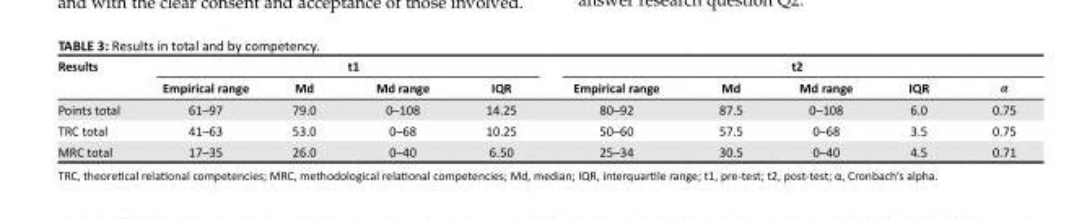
<table><thead><tr><td rowspan="2">Results</td><td colspan="4">t1</td><td colspan="5">t2</td></tr><tr><td>Empirical range</td><td>Md</td><td>Md range</td><td>IQR</td><td>Empirical range</td><td>Md</td><td>Md range</td><td>IQR</td><td>α</td></tr></thead><tbody><tr><td>Points total</td><td>61–97</td><td>79.0</td><td>0–108</td><td>14.25</td><td>80–92</td><td>87.5</td><td>0–108</td><td>6.0</td><td>0.75</td></tr><tr><td>TRC total</td><td>41–63</td><td>53.0</td><td>0–68</td><td>10.25</td><td>50–60</td><td>57.5</td><td>0–68</td><td>3.5</td><td>0.75</td></tr><tr><td>MRC total</td><td>17–35</td><td>26.0</td><td>0–40</td><td>6.50</td><td>25–34</td><td>30.5</td><td>0–40</td><td>4.5</td><td>0.71</td></tr></tbody></table>